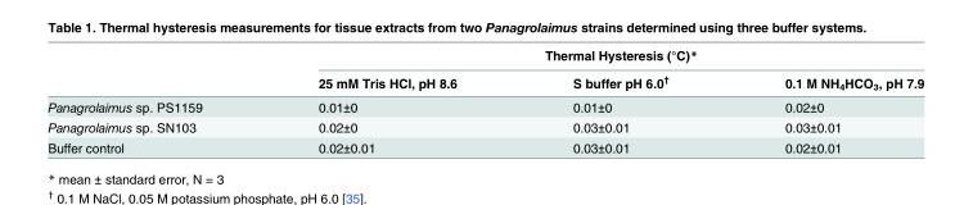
<table><thead><tr><td rowspan="2"></td><td colspan="3">Thermal Hysteresis (°C)*</td></tr><tr><td>25 mM Tris HCl, pH 8.6</td><td>S buffer pH 6.0<sup>†</sup></td><td>0.1 M NH<sub>4</sub>HCO<sub>3</sub>, pH 7.9</td></tr></thead><tbody><tr><td>Panagrolaimus sp. PS1159</td><td>0.01±0</td><td>0.01±0</td><td>0.02±0</td></tr><tr><td>Panagrolaimus sp. SN103</td><td>0.02±0</td><td>0.03±0.01</td><td>0.03±0.01</td></tr><tr><td>Buffer control</td><td>0.02±0.01</td><td>0.03±0.01</td><td>0.02±0.01</td></tr></tbody></table>